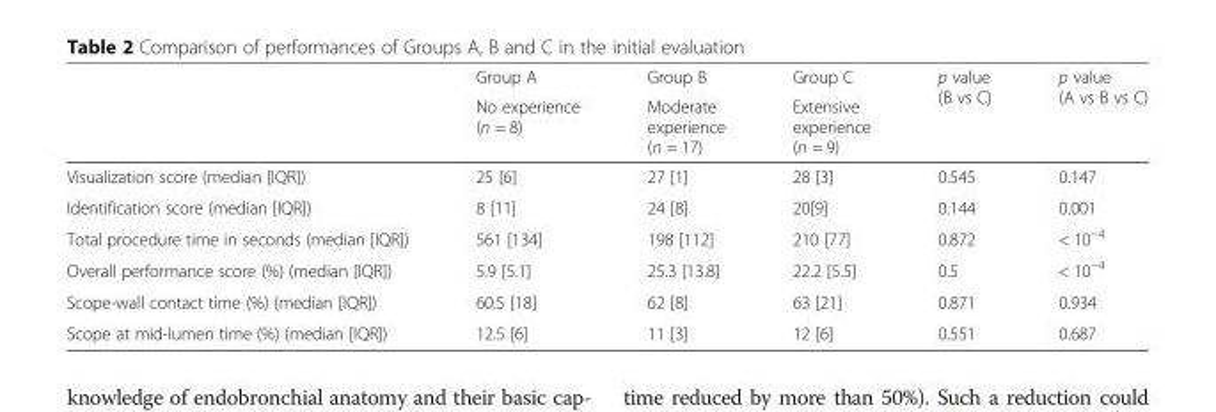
<table><thead><tr><td rowspan="2"></td><td rowspan="2">Group A No experience (n = 8)</td><td rowspan="2">Group B Moderate experience (n = 17)</td><td rowspan="2">Group C Extensive experience (n = 9)</td><td rowspan="2">p value (B vs C)</td><td rowspan="2">p value (A vs B vs C)</td></tr><tr></tr></thead><tbody><tr><td>Visualization score (median [IQR])</td><td>25 [6]</td><td>27 [1]</td><td>28 [3]</td><td>0.545</td><td>0.147</td></tr><tr><td>Identification score (median [IQR])</td><td>8 [11]</td><td>24 [8]</td><td>20[9]</td><td>0.144</td><td>0.001</td></tr><tr><td>Total procedure time in seconds (median [IQR])</td><td>561 [134]</td><td>198 [112]</td><td>210 [77]</td><td>0.872</td><td>&lt; 10<sup>−4</sup></td></tr><tr><td>Overall performance score (%) (median [IQR])</td><td>5.9 [5.1]</td><td>25.3 [13.8]</td><td>22.2 [5.5]</td><td>0.5</td><td>&lt; 10<sup>−4</sup></td></tr><tr><td>Scope-wall contact time (%) (median [IQR])</td><td>60.5 [18]</td><td>62 [8]</td><td>63 [21]</td><td>0.871</td><td>0.934</td></tr><tr><td>Scope at mid-lumen time (%) (median [IQR])</td><td>12.5 [6]</td><td>11 [3]</td><td>12 [6]</td><td>0.551</td><td>0.687</td></tr></tbody></table>